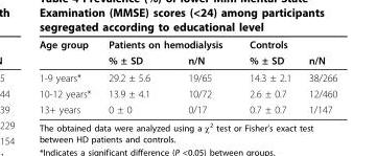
<table><thead><tr><td rowspan="2">Age group</td><td colspan="2">Patients on hemodialysis</td><td colspan="2">Controls</td></tr><tr><td>% ± SD</td><td>n/N</td><td>% ± SD</td><td>n/N</td></tr></thead><tbody><tr><td>1-9 years*</td><td>29.2 ± 5.6</td><td>19/65</td><td>14.3 ± 2.1</td><td>38/266</td></tr><tr><td>10-12 years*</td><td>13.9 ± 4.1</td><td>10/72</td><td>2.6 ± 0.7</td><td>12/460</td></tr><tr><td>13+ years</td><td>0 ± 0</td><td>0/17</td><td>0.7 ± 0.7</td><td>1/147</td></tr></tbody></table>